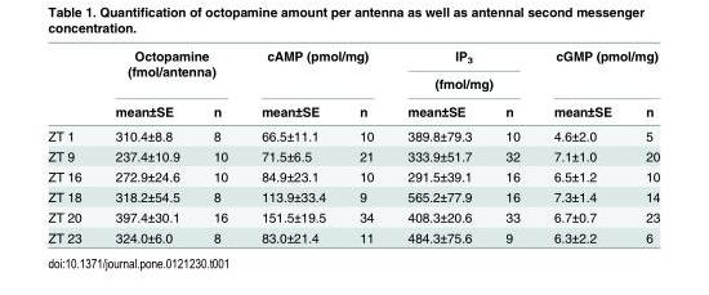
<table><thead><tr><td rowspan="3"></td><td rowspan="2" colspan="2">Octopamine (fmol/antenna)</td><td rowspan="2" colspan="2">cAMP (pmol/mg)</td><td rowspan="2" colspan="2">IP<sub>3</sub> (fmol/mg)</td><td rowspan="2" colspan="2">cGMP (pmol/mg)</td></tr><tr></tr><tr><td>mean±SE</td><td>n</td><td>mean±SE</td><td>n</td><td>mean±SE</td><td>n</td><td>mean±SE</td><td>n</td></tr></thead><tbody><tr><td>ZT 1</td><td>310.4±8.8</td><td>8</td><td>66.5±11.1</td><td>10</td><td>389.8±79.3</td><td>10</td><td>4.6±2.0</td><td>5</td></tr><tr><td>ZT 9</td><td>237.4±10.9</td><td>10</td><td>71.5±6.5</td><td>21</td><td>333.9±51.7</td><td>32</td><td>7.1±1.0</td><td>20</td></tr><tr><td>ZT 16</td><td>272.9±24.6</td><td>10</td><td>84.9±23.1</td><td>10</td><td>291.5±39.1</td><td>16</td><td>6.5±1.2</td><td>10</td></tr><tr><td>ZT 18</td><td>318.2±54.5</td><td>8</td><td>113.9±33.4</td><td>9</td><td>565.2±77.9</td><td>16</td><td>7.3±1.4</td><td>14</td></tr><tr><td>ZT 20</td><td>397.4±30.1</td><td>16</td><td>151.5±19.5</td><td>34</td><td>408.3±20.6</td><td>33</td><td>6.7±0.7</td><td>23</td></tr><tr><td>ZT 23</td><td>324.0±6.0</td><td>8</td><td>83.0±21.4</td><td>11</td><td>484.3±75.6</td><td>9</td><td>6.3±2.2</td><td>6</td></tr></tbody></table>